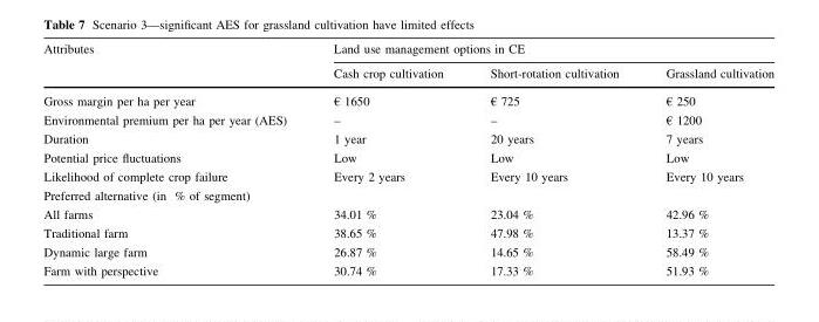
<table><thead><tr><td rowspan="2">Attributes</td><td colspan="3">Land use management options in CE</td></tr><tr><td>Cash crop cultivation</td><td>Short-rotation cultivation</td><td>Grassland cultivation</td></tr></thead><tbody><tr><td>Gross margin per ha per year</td><td>€ 1650</td><td>€ 725</td><td>€ 250</td></tr><tr><td>Environmental premium per ha per year (AES)</td><td>–</td><td>–</td><td>€ 1200</td></tr><tr><td>Duration</td><td>1 year</td><td>20 years</td><td>7 years</td></tr><tr><td>Potential price fluctuations</td><td>Low</td><td>Low</td><td>Low</td></tr><tr><td>Likelihood of complete crop failure</td><td>Every 2 years</td><td>Every 10 years</td><td>Every 10 years</td></tr><tr><td colspan="4">Preferred alternative (in % of segment)</td></tr><tr><td>All farms</td><td>34.01 %</td><td>23.04 %</td><td>42.96 %</td></tr><tr><td>Traditional farm</td><td>38.65 %</td><td>47.98 %</td><td>13.37 %</td></tr><tr><td>Dynamic large farm</td><td>26.87 %</td><td>14.65 %</td><td>58.49 %</td></tr><tr><td>Farm with perspective</td><td>30.74 %</td><td>17.33 %</td><td>51.93 %</td></tr></tbody></table>